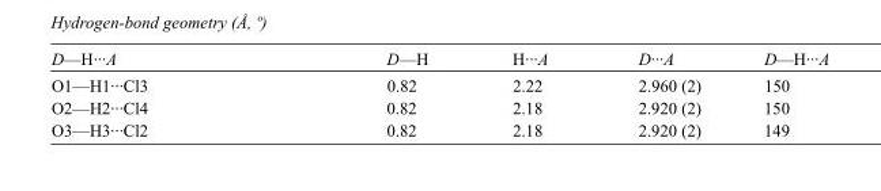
<table><tbody><tr><td>D—H···A</td><td>D—H</td><td>H···A</td><td>D···A</td><td>D—H···A</td></tr><tr><td>O1—H1···Cl3</td><td>0.82</td><td>2.22</td><td>2.960 (2)</td><td>150</td></tr><tr><td>O2—H2···Cl4</td><td>0.82</td><td>2.18</td><td>2.920 (2)</td><td>150</td></tr><tr><td>O3—H3···Cl2</td><td>0.82</td><td>2.18</td><td>2.920 (2)</td><td>149</td></tr></tbody></table>